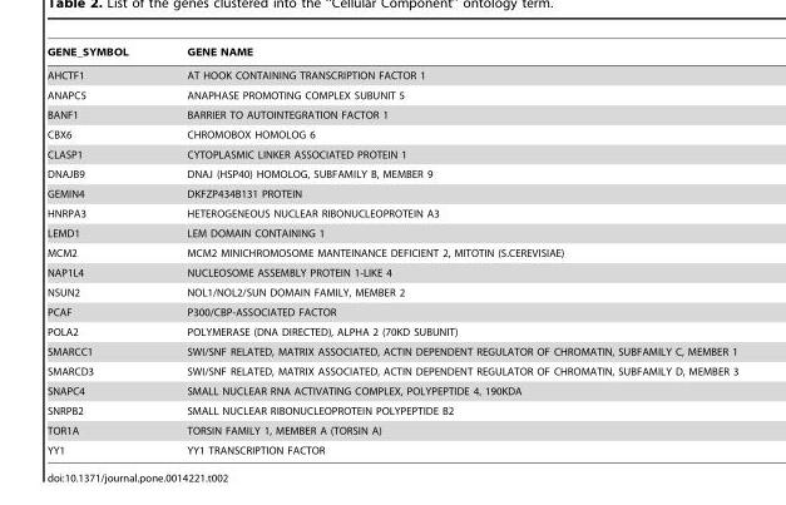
<table><thead><tr><td>GENE_SYMBOL</td><td>GENE NAME</td></tr></thead><tbody><tr><td>AHCTF1</td><td>AT HOOK CONTAINING TRANSCRIPTION FACTOR 1</td></tr><tr><td>ANAPC5</td><td>ANAPHASE PROMOTING COMPLEX SUBUNIT 5</td></tr><tr><td>BANF1</td><td>BARRIER TO AUTOINTEGRATION FACTOR 1</td></tr><tr><td>CBX6</td><td>CHROMOBOX HOMOLOG 6</td></tr><tr><td>CLASP1</td><td>CYTOPLASMIC LINKER ASSOCIATED PROTEIN 1</td></tr><tr><td>DNAJB9</td><td>DNAJ (HSP40) HOMOLOG, SUBFAMILY B, MEMBER 9</td></tr><tr><td>GEMIN4</td><td>DKFZP434B131 PROTEIN</td></tr><tr><td>HNRPA3</td><td>HETEROGENEOUS NUCLEAR RIBONUCLEOPROTEIN A3</td></tr><tr><td>LEMD1</td><td>LEM DOMAIN CONTAINING 1</td></tr><tr><td>MCM2</td><td>MCM2 MINICHROMOSOME MANTEINANCE DEFICIENT 2, MITOTIN (S.CEREVISIAE)</td></tr><tr><td>NAP1L4</td><td>NUCLEOSOME ASSEMBLY PROTEIN 1-LIKE 4</td></tr><tr><td>NSUN2</td><td>NOL1/NOL2/SUN DOMAIN FAMILY, MEMBER 2</td></tr><tr><td>PCAF</td><td>P300/CBP-ASSOCIATED FACTOR</td></tr><tr><td>POLA2</td><td>POLYMERASE (DNA DIRECTED), ALPHA 2 (70KD SUBUNIT)</td></tr><tr><td>SMARCC1</td><td>SWI/SNF RELATED, MATRIX ASSOCIATED, ACTIN DEPENDENT REGULATOR OF CHROMATIN, SUBFAMILY C, MEMBER 1</td></tr><tr><td>SMARCD3</td><td>SWI/SNF RELATED, MATRIX ASSOCIATED, ACTIN DEPENDENT REGULATOR OF CHROMATIN, SUBFAMILY D, MEMBER 3</td></tr><tr><td>SNAPC4</td><td>SMALL NUCLEAR RNA ACTIVATING COMPLEX, POLYPEPTIDE 4, 190KDA</td></tr><tr><td>SNRPB2</td><td>SMALL NUCLEAR RIBONUCLEOPROTEIN POLYPEPTIDE B2</td></tr><tr><td>TOR1A</td><td>TORSIN FAMILY 1, MEMBER A (TORSIN A)</td></tr><tr><td>YY1</td><td>YY1 TRANSCRIPTION FACTOR</td></tr></tbody></table>